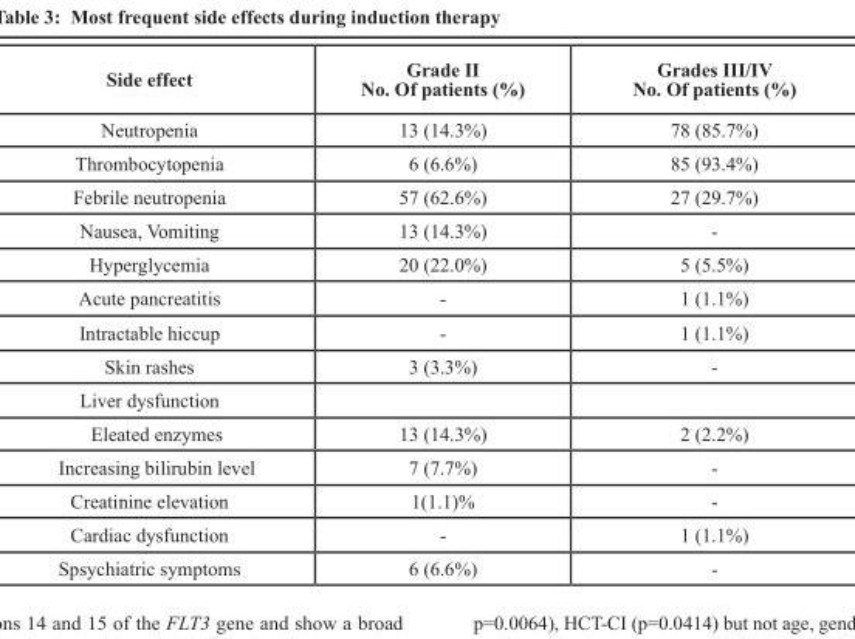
<table><thead><tr><td>Side effect</td><td>Grade II No. Of patients (%)</td><td>Grades III/IV No. Of patients (%)</td></tr></thead><tbody><tr><td>Neutropenia</td><td>13 (14.3%)</td><td>78 (85.7%)</td></tr><tr><td>Thrombocytopenia</td><td>6 (6.6%)</td><td>85 (93.4%)</td></tr><tr><td>Febrile neutropenia</td><td>57 (62.6%)</td><td>27 (29.7%)</td></tr><tr><td>Nausea, Vomiting</td><td>13 (14.3%)</td><td>-</td></tr><tr><td>Hyperglycemia</td><td>20 (22.0%)</td><td>5 (5.5%)</td></tr><tr><td>Acute pancreatitis</td><td>-</td><td>1 (1.1%)</td></tr><tr><td>Intractable hiccup</td><td>-</td><td>1 (1.1%)</td></tr><tr><td>Skin rashes</td><td>3 (3.3%)</td><td>-</td></tr><tr><td colspan="3">Liver dysfunction</td></tr><tr><td>Eleated enzymes</td><td>13 (14.3%)</td><td>2 (2.2%)</td></tr><tr><td>Increasing bilirubin level</td><td>7 (7.7%)</td><td>-</td></tr><tr><td>Creatinine elevation</td><td>1(1.1)%</td><td>-</td></tr><tr><td>Cardiac dysfunction</td><td>-</td><td>1 (1.1%)</td></tr><tr><td>Spsychiatric symptoms</td><td>6 (6.6%)</td><td>-</td></tr></tbody></table>